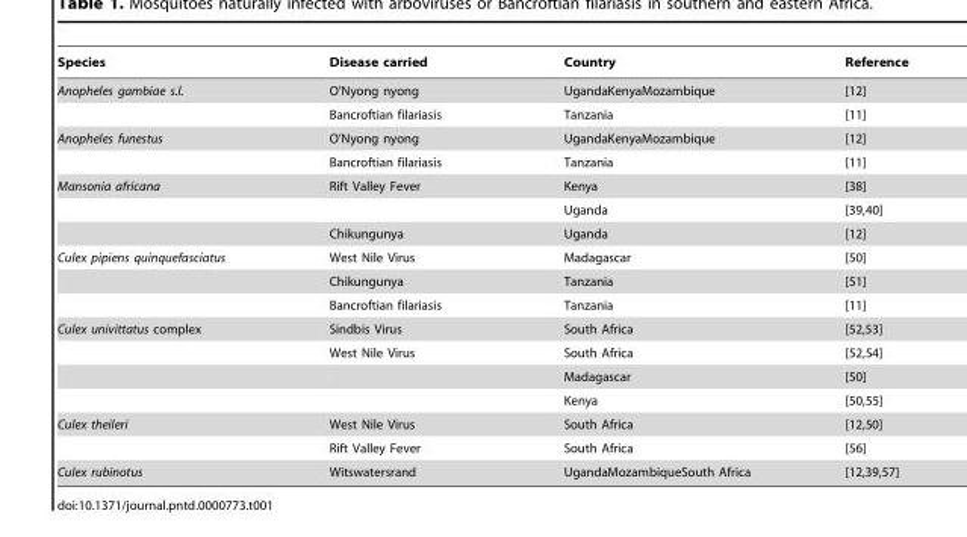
<table><thead><tr><td>Species</td><td>Disease carried</td><td>Country</td><td>Reference</td></tr></thead><tbody><tr><td rowspan="2">Anopheles gambiae s.l.</td><td>O’Nyong nyong</td><td>UgandaKenyaMozambique</td><td>[12]</td></tr><tr><td>Bancroftian filariasis</td><td>Tanzania</td><td>[11]</td></tr><tr><td rowspan="2">Anopheles funestus</td><td>O’Nyong nyong</td><td>UgandaKenyaMozambique</td><td>[12]</td></tr><tr><td>Bancroftian filariasis</td><td>Tanzania</td><td>[11]</td></tr><tr><td rowspan="3">Mansonia africana</td><td>Rift Valley Fever</td><td>Kenya</td><td>[38]</td></tr><tr><td></td><td>Uganda</td><td>[39,40]</td></tr><tr><td>Chikungunya</td><td>Uganda</td><td>[12]</td></tr><tr><td rowspan="3">Culex pipiens quinquefasciatus</td><td>West Nile Virus</td><td>Madagascar</td><td>[50]</td></tr><tr><td>Chikungunya</td><td>Tanzania</td><td>[51]</td></tr><tr><td>Bancroftian filariasis</td><td>Tanzania</td><td>[11]</td></tr><tr><td rowspan="4">Culex univittatus complex</td><td>Sindbis Virus</td><td>South Africa</td><td>[52,53]</td></tr><tr><td>West Nile Virus</td><td>South Africa</td><td>[52,54]</td></tr><tr><td></td><td>Madagascar</td><td>[50]</td></tr><tr><td></td><td>Kenya</td><td>[50,55]</td></tr><tr><td rowspan="2">Culex theileri</td><td>West Nile Virus</td><td>South Africa</td><td>[12,50]</td></tr><tr><td>Rift Valley Fever</td><td>South Africa</td><td>[56]</td></tr><tr><td>Culex rubinotus</td><td>Witswatersrand</td><td>UgandaMozambiqueSouth Africa</td><td>[12,39,57]</td></tr></tbody></table>